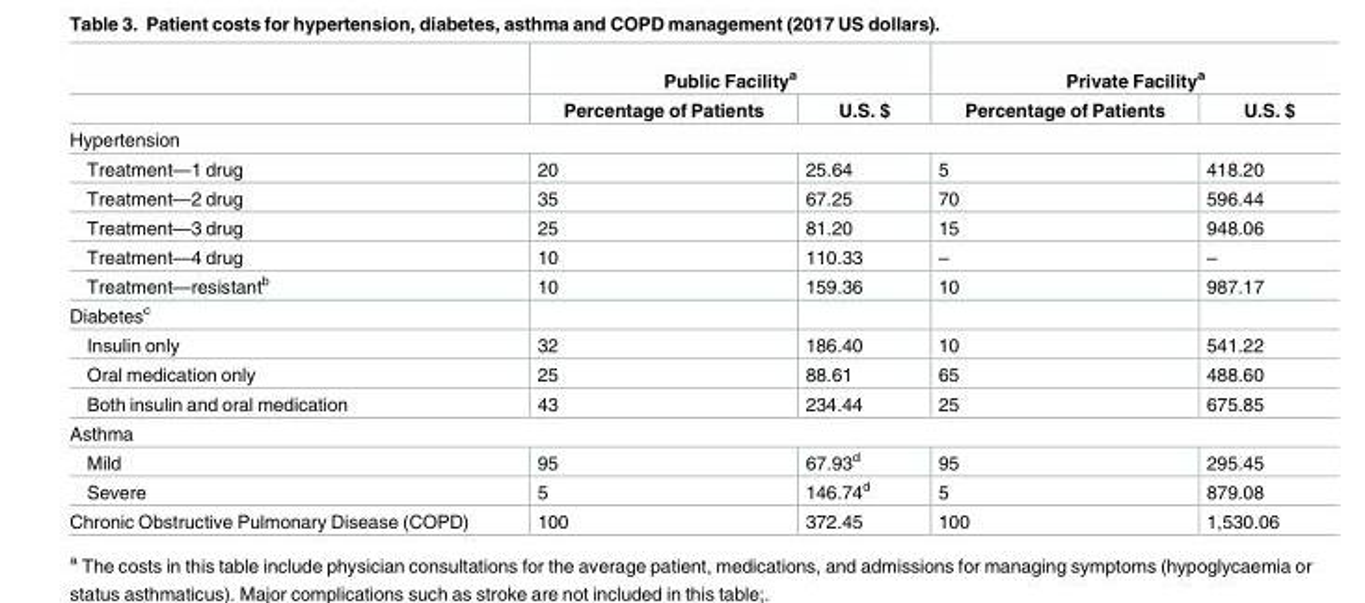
<table><thead><tr><td rowspan="2"></td><td colspan="2">Public Facility<sup>a</sup></td><td colspan="2">Private Facility<sup>a</sup></td></tr><tr><td>Percentage of Patients</td><td>U.S. $</td><td>Percentage of Patients</td><td>U.S. $</td></tr></thead><tbody><tr><td colspan="5">Hypertension</td></tr><tr><td>Treatment—1 drug</td><td>20</td><td>25.64</td><td>5</td><td>418.20</td></tr><tr><td>Treatment—2 drug</td><td>35</td><td>67.25</td><td>70</td><td>596.44</td></tr><tr><td>Treatment—3 drug</td><td>25</td><td>81.20</td><td>15</td><td>948.06</td></tr><tr><td>Treatment—4 drug</td><td>10</td><td>110.33</td><td>–</td><td>–</td></tr><tr><td>Treatment—resistant<sup>b</sup></td><td>10</td><td>159.36</td><td>10</td><td>987.17</td></tr><tr><td colspan="5">Diabetes<sup>c</sup></td></tr><tr><td>Insulin only</td><td>32</td><td>186.40</td><td>10</td><td>541.22</td></tr><tr><td>Oral medication only</td><td>25</td><td>88.61</td><td>65</td><td>488.60</td></tr><tr><td>Both insulin and oral medication</td><td>43</td><td>234.44</td><td>25</td><td>675.85</td></tr><tr><td colspan="5">Asthma</td></tr><tr><td>Mild</td><td>95</td><td>67.93<sup>d</sup></td><td>95</td><td>295.45</td></tr><tr><td>Severe</td><td>5</td><td>146.74<sup>d</sup></td><td>5</td><td>879.08</td></tr><tr><td>Chronic Obstructive Pulmonary Disease (COPD)</td><td>100</td><td>372.45</td><td>100</td><td>1,530.06</td></tr></tbody></table>